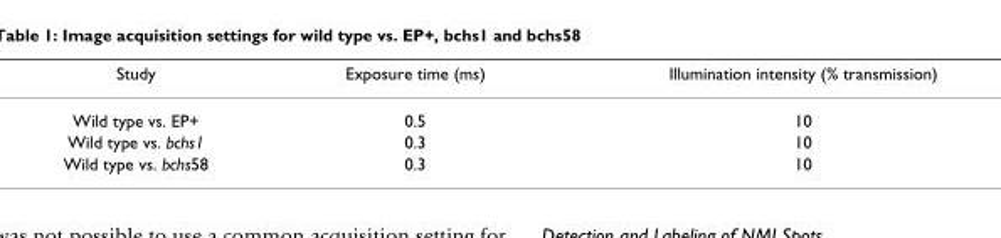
<table><thead><tr><td>Study</td><td>Exposure time (ms)</td><td>Illumination intensity (% transmission)</td></tr></thead><tbody><tr><td>Wild type vs. EP+</td><td>0.5</td><td>10</td></tr><tr><td>Wild type vs. bchs1</td><td>0.3</td><td>10</td></tr><tr><td>Wild type vs. bchs58</td><td>0.3</td><td>10</td></tr></tbody></table>